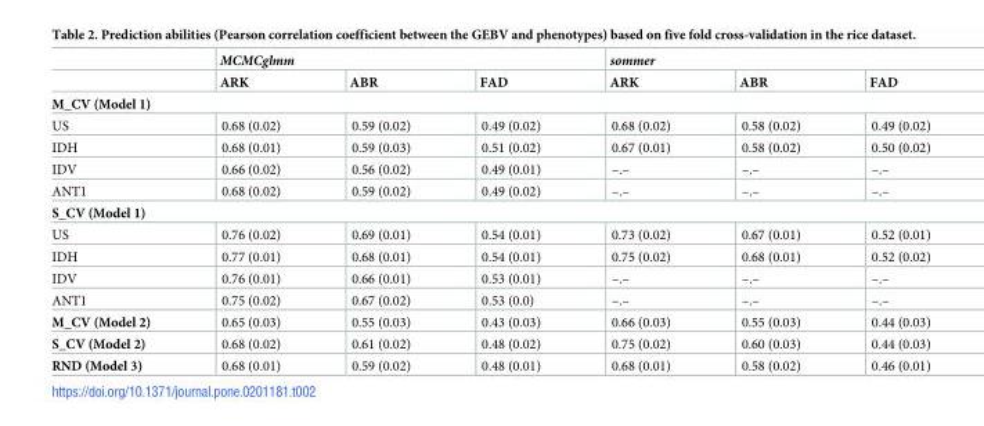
<table><thead><tr><td rowspan="2"></td><td colspan="3">MCMCglmm</td><td colspan="3">sommer</td></tr><tr><td>ARK</td><td>ABR</td><td>FAD</td><td>ARK</td><td>ABR</td><td>FAD</td></tr></thead><tbody><tr><td colspan="7">M_CV (Model 1)</td></tr><tr><td>US</td><td>0.68 (0.02)</td><td>0.59 (0.02)</td><td>0.49 (0.02)</td><td>0.68 (0.02)</td><td>0.58 (0.02)</td><td>0.49 (0.02)</td></tr><tr><td>IDH</td><td>0.68 (0.01)</td><td>0.59 (0.03)</td><td>0.51 (0.02)</td><td>0.67 (0.01)</td><td>0.58 (0.02)</td><td>0.50 (0.02)</td></tr><tr><td>IDV</td><td>0.66 (0.02)</td><td>0.56 (0.02)</td><td>0.49 (0.01)</td><td>–.–</td><td>–.–</td><td>–.–</td></tr><tr><td>ANT1</td><td>0.68 (0.02)</td><td>0.59 (0.02)</td><td>0.49 (0.02)</td><td>–.–</td><td>–.–</td><td>–.–</td></tr><tr><td colspan="7">S_CV (Model 1)</td></tr><tr><td>US</td><td>0.76 (0.02)</td><td>0.69 (0.01)</td><td>0.54 (0.01)</td><td>0.73 (0.02)</td><td>0.67 (0.01)</td><td>0.52 (0.01)</td></tr><tr><td>IDH</td><td>0.77 (0.01)</td><td>0.68 (0.01)</td><td>0.54 (0.01)</td><td>0.75 (0.02)</td><td>0.68 (0.01)</td><td>0.52 (0.02)</td></tr><tr><td>IDV</td><td>0.76 (0.01)</td><td>0.66 (0.01)</td><td>0.53 (0.01)</td><td>–.–</td><td>–.–</td><td>–.–</td></tr><tr><td>ANT1</td><td>0.75 (0.02)</td><td>0.67 (0.02)</td><td>0.53 (0.0)</td><td>–.–</td><td>–.–</td><td>–.–</td></tr><tr><td>M_CV (Model 2)</td><td>0.65 (0.03)</td><td>0.55 (0.03)</td><td>0.43 (0.03)</td><td>0.66 (0.03)</td><td>0.55 (0.03)</td><td>0.44 (0.03)</td></tr><tr><td>S_CV (Model 2)</td><td>0.68 (0.02)</td><td>0.61 (0.02)</td><td>0.48 (0.02)</td><td>0.75 (0.02)</td><td>0.60 (0.03)</td><td>0.44 (0.03)</td></tr><tr><td>RND (Model 3)</td><td>0.68 (0.01)</td><td>0.59 (0.02)</td><td>0.48 (0.01)</td><td>0.68 (0.01)</td><td>0.58 (0.02)</td><td>0.46 (0.01)</td></tr></tbody></table>